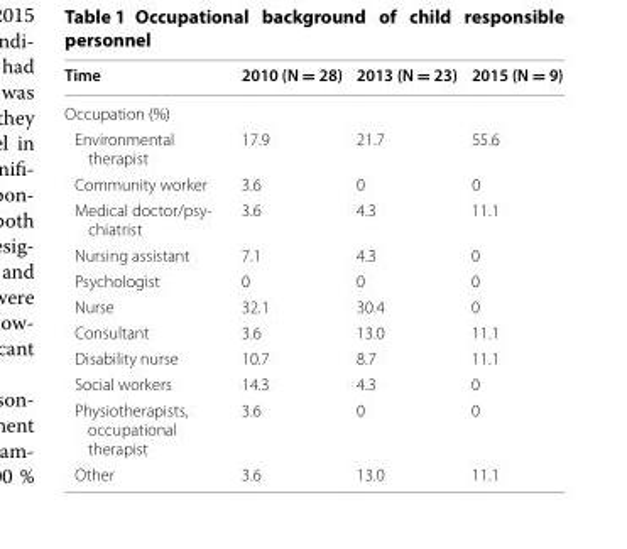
<table><thead><tr><td>Time</td><td>2010 (N = 28)</td><td>2013 (N = 23)</td><td>2015 (N = 9)</td></tr></thead><tbody><tr><td colspan="4">Occupation (%)</td></tr><tr><td>Environmental therapist</td><td>17.9</td><td>21.7</td><td>55.6</td></tr><tr><td>Community worker</td><td>3.6</td><td>0</td><td>0</td></tr><tr><td>Medical doctor/psy- chiatrist</td><td>3.6</td><td>4.3</td><td>11.1</td></tr><tr><td>Nursing assistant</td><td>7.1</td><td>4.3</td><td>0</td></tr><tr><td>Psychologist</td><td>0</td><td>0</td><td>0</td></tr><tr><td>Nurse</td><td>32.1</td><td>30.4</td><td>0</td></tr><tr><td>Consultant</td><td>3.6</td><td>13.0</td><td>11.1</td></tr><tr><td>Disability nurse</td><td>10.7</td><td>8.7</td><td>11.1</td></tr><tr><td>Social workers</td><td>14.3</td><td>4.3</td><td>0</td></tr><tr><td>Physiotherapists, occupational therapist</td><td>3.6</td><td>0</td><td>0</td></tr><tr><td>Other</td><td>3.6</td><td>13.0</td><td>11.1</td></tr></tbody></table>